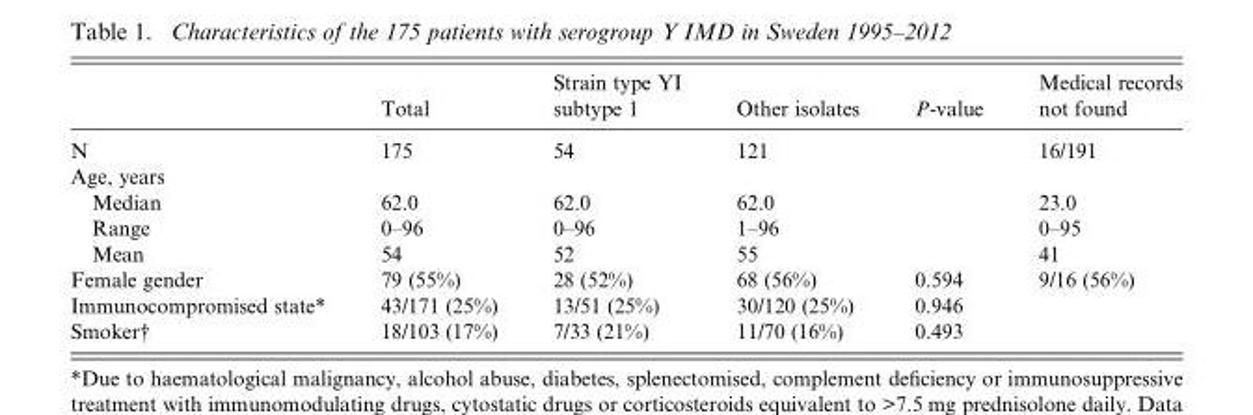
<table><thead><tr><td></td><td>Total</td><td>Strain type YI subtype 1</td><td>Other isolates</td><td>P-value</td><td>Medical records not found</td></tr></thead><tbody><tr><td>N</td><td>175</td><td>54</td><td>121</td><td></td><td>16/191</td></tr><tr><td colspan="6">Age, years</td></tr><tr><td>Median</td><td>62.0</td><td>62.0</td><td>62.0</td><td></td><td>23.0</td></tr><tr><td>Range</td><td>0–96</td><td>0–96</td><td>1–96</td><td></td><td>0–95</td></tr><tr><td>Mean</td><td>54</td><td>52</td><td>55</td><td></td><td>41</td></tr><tr><td>Female gender</td><td>79 (55%)</td><td>28 (52%)</td><td>68 (56%)</td><td>0.594</td><td>9/16 (56%)</td></tr><tr><td>Immunocompromised state*</td><td>43/171 (25%)</td><td>13/51 (25%)</td><td>30/120 (25%)</td><td>0.946</td><td></td></tr><tr><td>Smoker†</td><td>18/103 (17%)</td><td>7/33 (21%)</td><td>11/70 (16%)</td><td>0.493</td><td></td></tr></tbody></table>